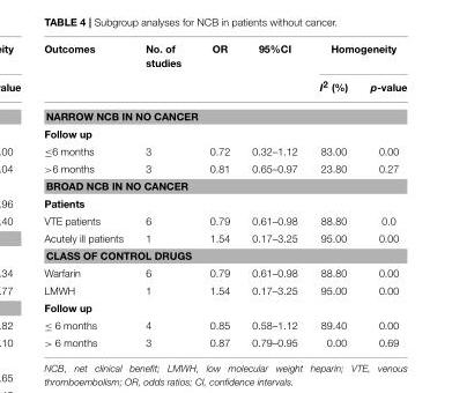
<table><thead><tr><td rowspan="2">Outcomes</td><td rowspan="2">No. of studies</td><td rowspan="2">OR</td><td rowspan="2">95%CI</td><td colspan="2">Homogeneity</td></tr><tr><td>I<sup>2</sup> (%)</td><td>p-value</td></tr></thead><tbody><tr><td colspan="6">NARROW NCB IN NO CANCER</td></tr><tr><td colspan="6">Follow up</td></tr><tr><td>≤6 months</td><td>3</td><td>0.72</td><td>0.32–1.12</td><td>83.00</td><td>0.00</td></tr><tr><td>&gt;6 months</td><td>3</td><td>0.81</td><td>0.65–0.97</td><td>23.80</td><td>0.27</td></tr><tr><td colspan="6">BROAD NCB IN NO CANCER</td></tr><tr><td colspan="6">Patients</td></tr><tr><td>VTE patients</td><td>6</td><td>0.79</td><td>0.61–0.98</td><td>88.80</td><td>0.0</td></tr><tr><td>Acutely ill patients</td><td>1</td><td>1.54</td><td>0.17–3.25</td><td>95.00</td><td>0.00</td></tr><tr><td colspan="6">CLASS OF CONTROL DRUGS</td></tr><tr><td>Warfarin</td><td>6</td><td>0.79</td><td>0.61–0.98</td><td>88.80</td><td>0.00</td></tr><tr><td>LMWH</td><td>1</td><td>1.54</td><td>0.17–3.25</td><td>95.00</td><td>0.00</td></tr><tr><td colspan="6">Follow up</td></tr><tr><td>≤ 6 months</td><td>4</td><td>0.85</td><td>0.58–1.12</td><td>89.40</td><td>0.00</td></tr><tr><td>&gt; 6 months</td><td>3</td><td>0.87</td><td>0.79–0.95</td><td>0.00</td><td>0.69</td></tr></tbody></table>